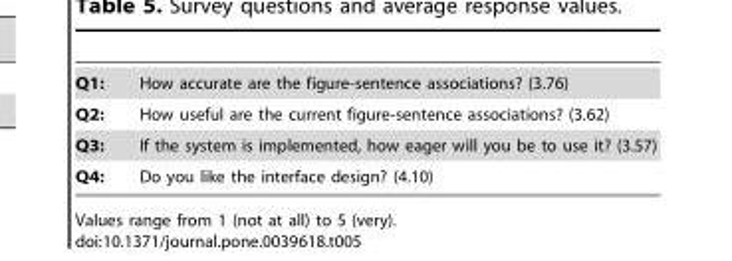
<table><tbody><tr><td>Q1:</td><td>How accurate are the figure-sentence associations? (3.76)</td></tr><tr><td>Q2:</td><td>How useful are the current figure-sentence associations? (3.62)</td></tr><tr><td>Q3:</td><td>If the system is implemented, how eager will you be to use it? (3.57)</td></tr><tr><td>Q4:</td><td>Do you like the interface design? (4.10)</td></tr></tbody></table>